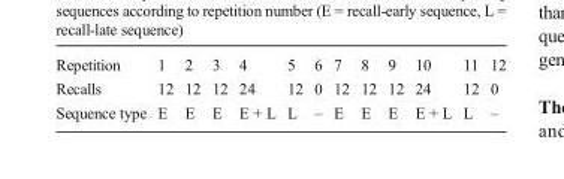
<table><tbody><tr><td>Repetition</td><td>1</td><td>2</td><td>3</td><td>4</td><td>5</td><td>6</td><td>7</td><td>8</td><td>9</td><td>10</td><td>11</td><td>12</td></tr><tr><td>Recalls</td><td>12</td><td>12</td><td>12</td><td>24</td><td>12</td><td>0</td><td>12</td><td>12</td><td>12</td><td>24</td><td>12</td><td>0</td></tr><tr><td>Sequence type</td><td>E</td><td>E</td><td>E</td><td>E + L</td><td>L</td><td>–</td><td>E</td><td>E</td><td>E</td><td>E + L</td><td>L</td><td>–</td></tr></tbody></table>